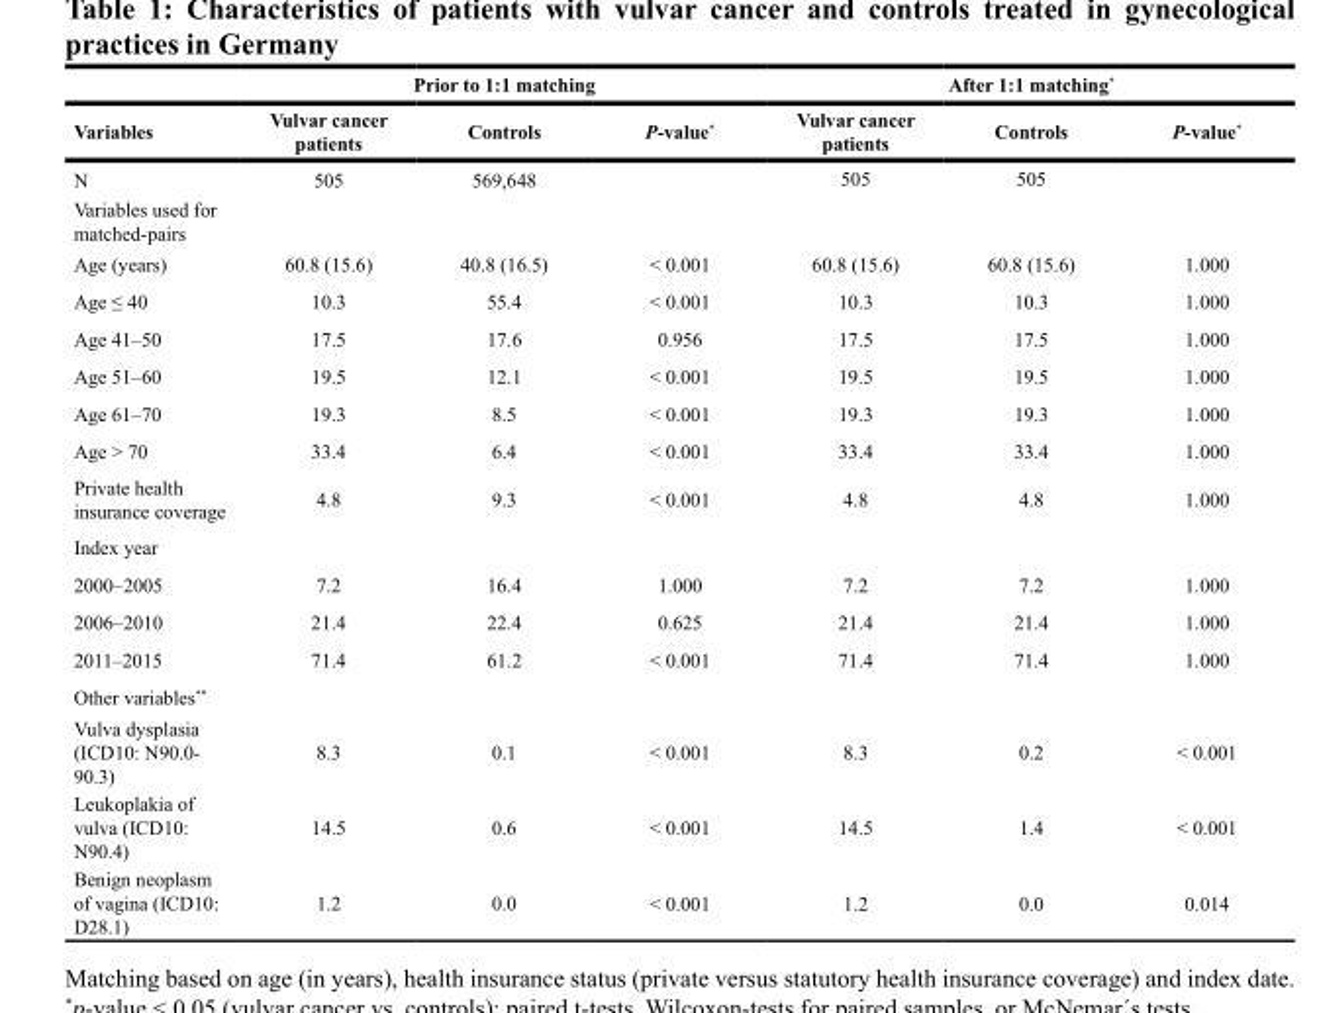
<table><thead><tr><td rowspan="2">Variables</td><td colspan="3">Prior to 1:1 matching</td><td colspan="3">After 1:1 matching*</td></tr><tr><td>Vulvar cancer patients</td><td>Controls</td><td>P-value*</td><td>Vulvar cancer patients</td><td>Controls</td><td>P-value*</td></tr></thead><tbody><tr><td>N</td><td>505</td><td>569,648</td><td></td><td>505</td><td>505</td><td></td></tr><tr><td colspan="7">Variables used for matched-pairs</td></tr><tr><td>Age (years)</td><td>60.8 (15.6)</td><td>40.8 (16.5)</td><td>&lt; 0.001</td><td>60.8 (15.6)</td><td>60.8 (15.6)</td><td>1.000</td></tr><tr><td>Age ≤ 40</td><td>10.3</td><td>55.4</td><td>&lt; 0.001</td><td>10.3</td><td>10.3</td><td>1.000</td></tr><tr><td>Age 41–50</td><td>17.5</td><td>17.6</td><td>0.956</td><td>17.5</td><td>17.5</td><td>1.000</td></tr><tr><td>Age 51–60</td><td>19.5</td><td>12.1</td><td>&lt; 0.001</td><td>19.5</td><td>19.5</td><td>1.000</td></tr><tr><td>Age 61–70</td><td>19.3</td><td>8.5</td><td>&lt; 0.001</td><td>19.3</td><td>19.3</td><td>1.000</td></tr><tr><td>Age &gt; 70</td><td>33.4</td><td>6.4</td><td>&lt; 0.001</td><td>33.4</td><td>33.4</td><td>1.000</td></tr><tr><td>Private health insurance coverage</td><td>4.8</td><td>9.3</td><td>&lt; 0.001</td><td>4.8</td><td>4.8</td><td>1.000</td></tr><tr><td colspan="7">Index year</td></tr><tr><td>2000–2005</td><td>7.2</td><td>16.4</td><td>1.000</td><td>7.2</td><td>7.2</td><td>1.000</td></tr><tr><td>2006–2010</td><td>21.4</td><td>22.4</td><td>0.625</td><td>21.4</td><td>21.4</td><td>1.000</td></tr><tr><td>2011–2015</td><td>71.4</td><td>61.2</td><td>&lt; 0.001</td><td>71.4</td><td>71.4</td><td>1.000</td></tr><tr><td colspan="7">Other variables**</td></tr><tr><td>Vulva dysplasia (ICD10: N90.0- 90.3)</td><td>8.3</td><td>0.1</td><td>&lt; 0.001</td><td>8.3</td><td>0.2</td><td>&lt; 0.001</td></tr><tr><td>Leukoplakia of vulva (ICD10: N90.4)</td><td>14.5</td><td>0.6</td><td>&lt; 0.001</td><td>14.5</td><td>1.4</td><td>&lt; 0.001</td></tr><tr><td>Benign neoplasm of vagina (ICD10: D28.1)</td><td>1.2</td><td>0.0</td><td>&lt; 0.001</td><td>1.2</td><td>0.0</td><td>0.014</td></tr></tbody></table>